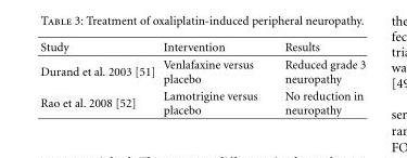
<table><thead><tr><td>Study</td><td>Intervention</td><td>Results</td></tr></thead><tbody><tr><td>Durand et al. 2003 [51]</td><td>Venlafaxine versus placebo</td><td>Reduced grade 3 neuropathy</td></tr><tr><td>Rao et al. 2008 [52]</td><td>Lamotrigine versus placebo</td><td>No reduction in neuropathy</td></tr></tbody></table>